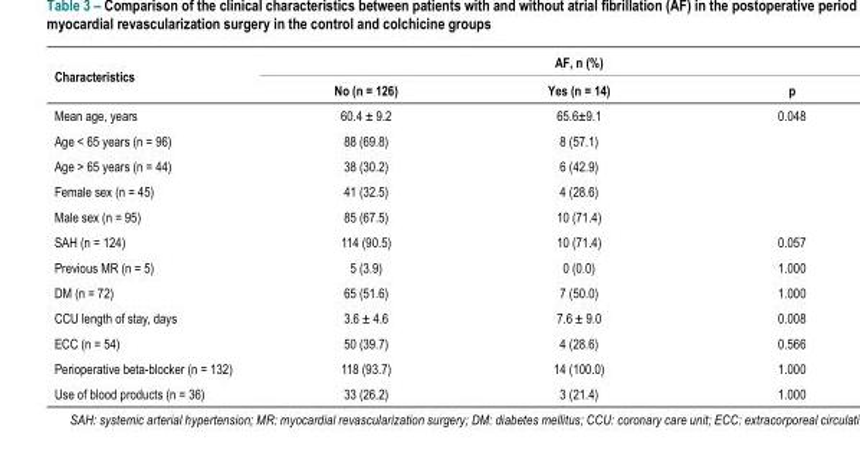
<table><thead><tr><td rowspan="2">Characteristics</td><td colspan="3">AF, n (%)</td></tr><tr><td>No (n = 126)</td><td>Yes (n = 14)</td><td>p</td></tr></thead><tbody><tr><td>Mean age, years</td><td>60.4 ± 9.2</td><td>65.6±9.1</td><td>0.048</td></tr><tr><td>Age &lt; 65 years (n = 96)</td><td>88 (69.8)</td><td>8 (57.1)</td><td></td></tr><tr><td>Age &gt; 65 years (n = 44)</td><td>38 (30.2)</td><td>6 (42.9)</td><td></td></tr><tr><td>Female sex (n = 45)</td><td>41 (32.5)</td><td>4 (28.6)</td><td></td></tr><tr><td>Male sex (n = 95)</td><td>85 (67.5)</td><td>10 (71.4)</td><td></td></tr><tr><td>SAH (n = 124)</td><td>114 (90.5)</td><td>10 (71.4)</td><td>0.057</td></tr><tr><td>Previous MR (n = 5)</td><td>5 (3.9)</td><td>0 (0.0)</td><td>1.000</td></tr><tr><td>DM (n = 72)</td><td>65 (51.6)</td><td>7 (50.0)</td><td>1.000</td></tr><tr><td>CCU length of stay, days</td><td>3.6 ± 4.6</td><td>7.6 ± 9.0</td><td>0.008</td></tr><tr><td>ECC (n = 54)</td><td>50 (39.7)</td><td>4 (28.6)</td><td>0.566</td></tr><tr><td>Perioperative beta-blocker (n = 132)</td><td>118 (93.7)</td><td>14 (100.0)</td><td>1.000</td></tr><tr><td>Use of blood products (n = 36)</td><td>33 (26.2)</td><td>3 (21.4)</td><td>1.000</td></tr></tbody></table>